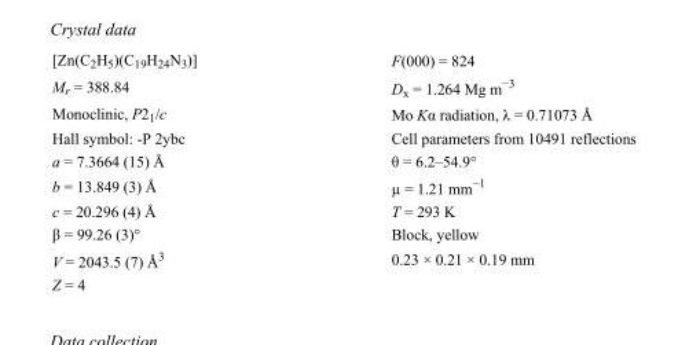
<table><tbody><tr><td>[Zn(C<sub>2</sub>H<sub>5</sub>)(C<sub>19</sub>H<sub>24</sub>N<sub>3</sub>)]</td><td>F(000) = 824</td></tr><tr><td>M<sub>r</sub> = 388.84</td><td>D<sub>x</sub> = 1.264 Mg m<sup>−3</sup></td></tr><tr><td>Monoclinic, P2<sub>1</sub>/c</td><td>Mo Kα radiation, λ = 0.71073 Å</td></tr><tr><td>Hall symbol: -P 2ybc</td><td>Cell parameters from 10491 reflections</td></tr><tr><td>a = 7.3664 (15) Å</td><td>θ = 6.2–54.9°</td></tr><tr><td>b = 13.849 (3) Å</td><td>µ = 1.21 mm<sup>−1</sup></td></tr><tr><td>c = 20.296 (4) Å</td><td>T = 293 K</td></tr><tr><td>β = 99.26 (3)°</td><td>Block, yellow</td></tr><tr><td>V = 2043.5 (7) Å<sup>3</sup></td><td>0.23 × 0.21 × 0.19 mm</td></tr><tr><td>Z = 4</td><td></td></tr></tbody></table>